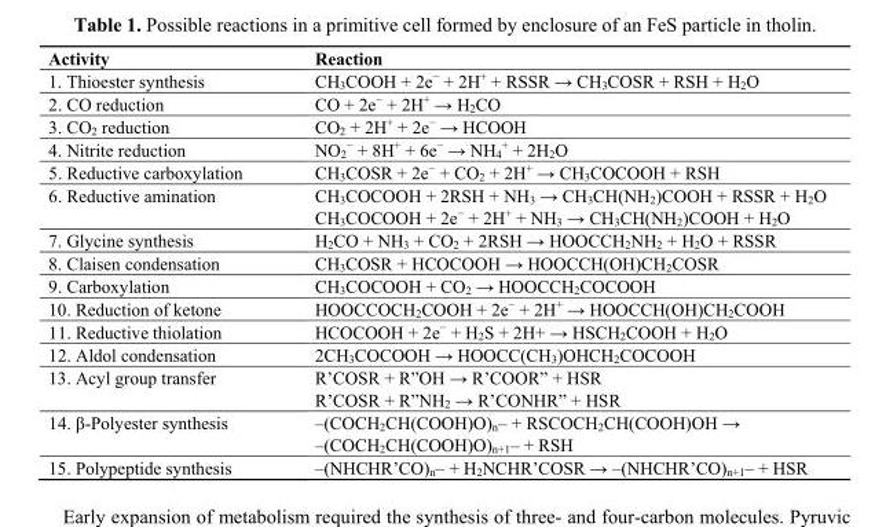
<table><thead><tr><td>Activity</td><td>Reaction</td></tr></thead><tbody><tr><td>1. Thioester synthesis</td><td>CH<sub>3</sub>COOH + 2e<sup>−</sup> + 2H<sup>+</sup> + RSSR → CH<sub>3</sub>COSR + RSH + H<sub>2</sub>O</td></tr><tr><td>2. CO reduction</td><td>CO + 2e<sup>−</sup> + 2H<sup>+</sup> → H<sub>2</sub>CO</td></tr><tr><td>3. CO<sub>2</sub> reduction</td><td>CO<sub>2</sub> + 2H<sup>+</sup> + 2e<sup>−</sup> → HCOOH</td></tr><tr><td>4. Nitrite reduction</td><td>NO<sub>2</sub><sup>−</sup> + 8H<sup>+</sup> + 6e<sup>−</sup> → NH<sub>4</sub><sup>+</sup> + 2H<sub>2</sub>O</td></tr><tr><td>5. Reductive carboxylation</td><td>CH<sub>3</sub>COSR + 2e<sup>−</sup> + CO<sub>2</sub> + 2H<sup>+</sup> → CH<sub>3</sub>COCOOH + RSH</td></tr><tr><td rowspan="2">6. Reductive amination</td><td>CH<sub>3</sub>COCOOH + 2RSH + NH<sub>3</sub> → CH<sub>3</sub>CH(NH<sub>2</sub>)COOH + RSSR + H<sub>2</sub>O</td></tr><tr><td>CH<sub>3</sub>COCOOH + 2e<sup>−</sup> + 2H<sup>+</sup> + NH<sub>3</sub> → CH<sub>3</sub>CH(NH<sub>2</sub>)COOH + H<sub>2</sub>O</td></tr><tr><td>7. Glycine synthesis</td><td>H<sub>2</sub>CO + NH<sub>3</sub> + CO<sub>2</sub> + 2RSH → HOOCCH<sub>2</sub>NH<sub>2</sub> + H<sub>2</sub>O + RSSR</td></tr><tr><td>8. Claisen condensation</td><td>CH<sub>3</sub>COSR + HCOCOOH → HOOCCH(OH)CH<sub>2</sub>COSR</td></tr><tr><td>9. Carboxylation</td><td>CH<sub>3</sub>COCOOH + CO<sub>2</sub> → HOOCCH<sub>2</sub>COCOOH</td></tr><tr><td>10. Reduction of ketone</td><td>HOOCCOCH<sub>2</sub>COOH + 2e<sup>−</sup> + 2H<sup>+</sup> → HOOCCH(OH)CH<sub>2</sub>COOH</td></tr><tr><td>11. Reductive thiolation</td><td>HCOCOOH + 2e<sup>−</sup> + H<sub>2</sub>S + 2H+ → HSCH<sub>2</sub>COOH + H<sub>2</sub>O</td></tr><tr><td>12. Aldol condensation</td><td>2CH<sub>3</sub>COCOOH → HOOCC(CH<sub>3</sub>)OHCH<sub>2</sub>COCOOH</td></tr><tr><td rowspan="2">13. Acyl group transfer</td><td>R’COSR + R”OH → R’COOR” + HSR</td></tr><tr><td>R’COSR + R”NH<sub>2</sub> → R’CONHR” + HSR</td></tr><tr><td>14. β-Polyester synthesis</td><td>–(COCH<sub>2</sub>CH(COOH)O)<sub>n</sub>– + RSCOCH<sub>2</sub>CH(COOH)OH → –(COCH<sub>2</sub>CH(COOH)O)<sub>n+1</sub>– + RSH</td></tr><tr><td>15. Polypeptide synthesis</td><td>–(NHCHR’CO)<sub>n</sub>– + H<sub>2</sub>NCHR’COSR → –(NHCHR’CO)<sub>n+1</sub>– + HSR</td></tr></tbody></table>